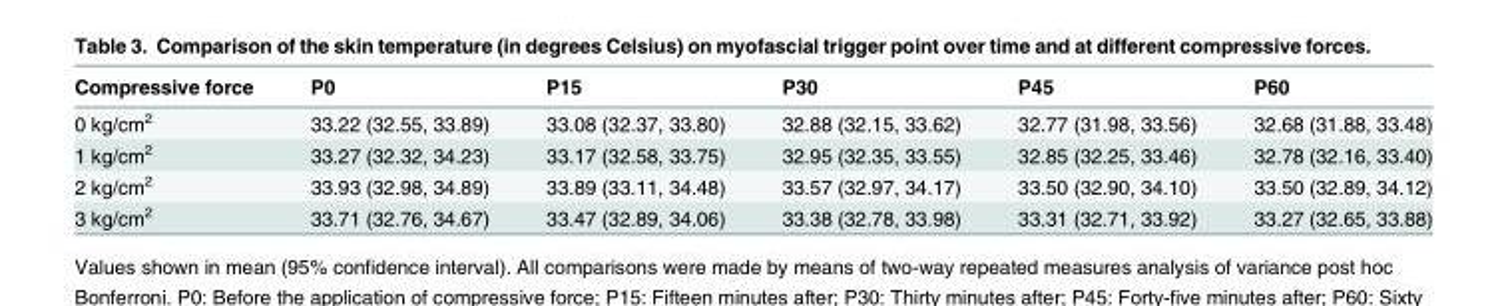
<table><thead><tr><td>Compressive force</td><td>P0</td><td>P15</td><td>P30</td><td>P45</td><td>P60</td></tr></thead><tbody><tr><td>0 kg/cm<sup>2</sup></td><td>33.22 (32.55, 33.89)</td><td>33.08 (32.37, 33.80)</td><td>32.88 (32.15, 33.62)</td><td>32.77 (31.98, 33.56)</td><td>32.68 (31.88, 33.48)</td></tr><tr><td>1 kg/cm<sup>2</sup></td><td>33.27 (32.32, 34.23)</td><td>33.17 (32.58, 33.75)</td><td>32.95 (32.35, 33.55)</td><td>32.85 (32.25, 33.46)</td><td>32.78 (32.16, 33.40)</td></tr><tr><td>2 kg/cm<sup>2</sup></td><td>33.93 (32.98, 34.89)</td><td>33.89 (33.11, 34.48)</td><td>33.57 (32.97, 34.17)</td><td>33.50 (32.90, 34.10)</td><td>33.50 (32.89, 34.12)</td></tr><tr><td>3 kg/cm<sup>2</sup></td><td>33.71 (32.76, 34.67)</td><td>33.47 (32.89, 34.06)</td><td>33.38 (32.78, 33.98)</td><td>33.31 (32.71, 33.92)</td><td>33.27 (32.65, 33.88)</td></tr></tbody></table>